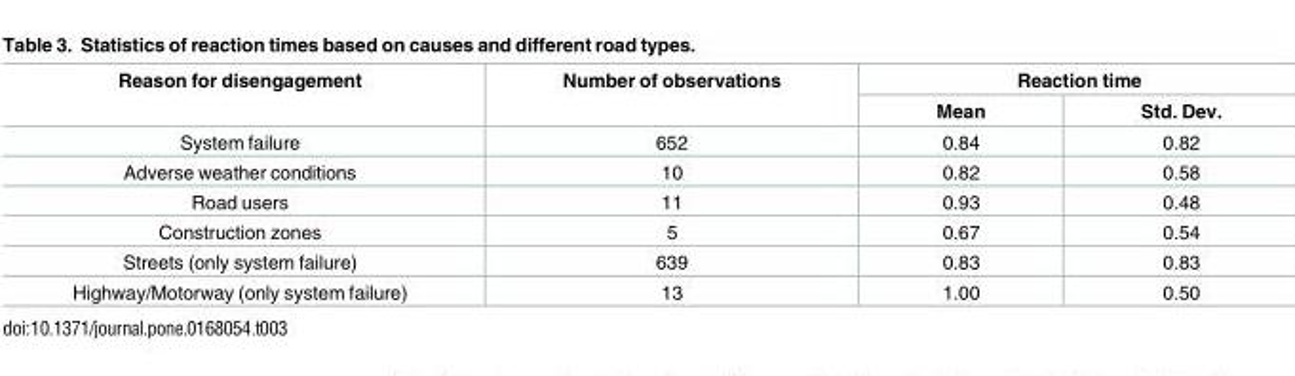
<table><thead><tr><td rowspan="2">Reason for disengagement</td><td rowspan="2">Number of observations</td><td colspan="2">Reaction time</td></tr><tr><td>Mean</td><td>Std. Dev.</td></tr></thead><tbody><tr><td>System failure</td><td>652</td><td>0.84</td><td>0.82</td></tr><tr><td>Adverse weather conditions</td><td>10</td><td>0.82</td><td>0.58</td></tr><tr><td>Road users</td><td>11</td><td>0.93</td><td>0.48</td></tr><tr><td>Construction zones</td><td>5</td><td>0.67</td><td>0.54</td></tr><tr><td>Streets (only system failure)</td><td>639</td><td>0.83</td><td>0.83</td></tr><tr><td>Highway/Motorway (only system failure)</td><td>13</td><td>1.00</td><td>0.50</td></tr></tbody></table>